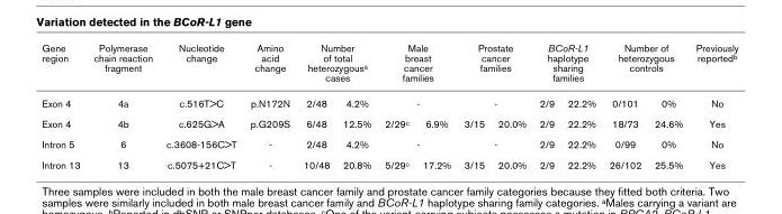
<table><thead><tr><td rowspan="3">Gene region Exon 4 Exon 4</td><td rowspan="3">Polymerase chain reaction fragment 4a 4b</td><td rowspan="3">Nucleotide change c.516T&gt;C c.625G&gt;A</td><td rowspan="3">Amino acid change p.N172N p.G209S</td><td colspan="2">Number of total heterozygous<sup>a</sup> cases</td><td rowspan="2" colspan="2">Male breast cancer families -</td><td rowspan="2" colspan="2">Prostate cancer families -</td><td colspan="2">BCoR-L1 haplotype sharing families</td><td colspan="2">Number of heterozygous controls</td><td rowspan="3">Previously reported<sup>b</sup> No Yes</td></tr><tr><td rowspan="2">2/48 6/48</td><td rowspan="2">4.2% 12.5%</td><td rowspan="2">2/9 2/9</td><td rowspan="2">22.2% 22.2%</td><td rowspan="2">0/101 18/73</td><td rowspan="2">0% 24.6%</td></tr><tr><td>2/29<sup>c</sup></td><td>6.9%</td><td>3/15</td><td>20.0%</td></tr></thead><tbody><tr><td>Intron 5</td><td>6</td><td>c.3608-156C&gt;T</td><td>-</td><td>2/48</td><td>4.2%</td><td colspan="2">-</td><td colspan="2">-</td><td>2/9</td><td>22.2%</td><td>0/99</td><td>0%</td><td>No</td></tr><tr><td>Intron 13</td><td>13</td><td>c.5075+21C&gt;T</td><td>-</td><td>10/48</td><td>20.8%</td><td>5/29<sup>c</sup></td><td>17.2%</td><td>3/15</td><td>20.0%</td><td>2/9</td><td>22.2%</td><td>26/102</td><td>25.5%</td><td>Yes</td></tr></tbody></table>